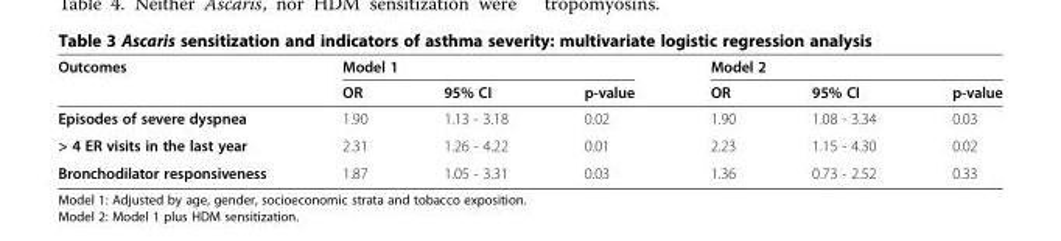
<table><thead><tr><td rowspan="2">Outcomes</td><td colspan="3">Model 1</td><td colspan="3">Model 2</td></tr><tr><td>OR</td><td>95% CI</td><td>p-value</td><td>OR</td><td>95% CI</td><td>p-value</td></tr></thead><tbody><tr><td>Episodes of severe dyspnea</td><td>1.90</td><td>1.13 - 3.18</td><td>0.02</td><td>1.90</td><td>1.08 - 3.34</td><td>0.03</td></tr><tr><td>&gt; 4 ER visits in the last year</td><td>2.31</td><td>1.26 - 4.22</td><td>0.01</td><td>2.23</td><td>1.15 - 4.30</td><td>0.02</td></tr><tr><td>Bronchodilator responsiveness</td><td>1.87</td><td>1.05 - 3.31</td><td>0.03</td><td>1.36</td><td>0.73 - 2.52</td><td>0.33</td></tr></tbody></table>